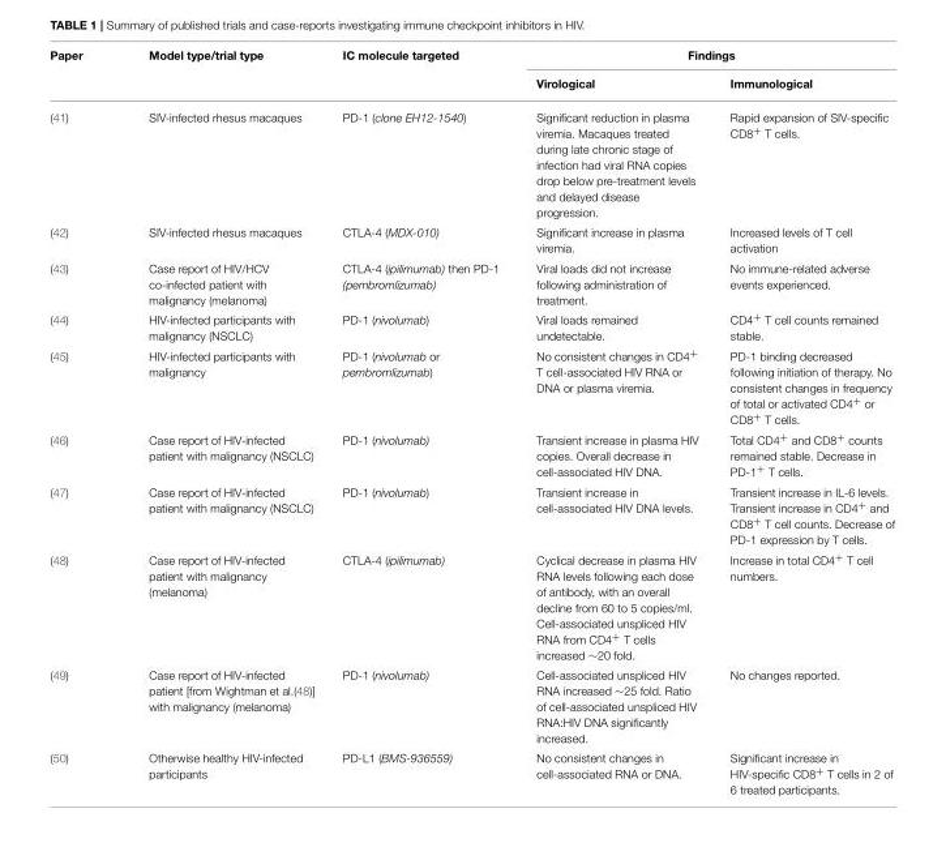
<table><thead><tr><td rowspan="2">Paper</td><td rowspan="2">Model type/trial type</td><td rowspan="2">IC molecule targeted</td><td colspan="2">Findings</td></tr><tr><td>Virological</td><td>Immunological</td></tr></thead><tbody><tr><td>(41)</td><td>SIV-infected rhesus macaques</td><td>PD-1 (clone EH12-1540)</td><td>Significant reduction in plasma viremia. Macaques treated during late chronic stage of infection had viral RNA copies drop below pre-treatment levels and delayed disease progression.</td><td>Rapid expansion of SIV-specific CD8<sup>+</sup> T cells.</td></tr><tr><td>(42)</td><td>SIV-infected rhesus macaques</td><td>CTLA-4 (MDX-010)</td><td>Significant increase in plasma viremia.</td><td>Increased levels of T cell activation</td></tr><tr><td>(43)</td><td>Case report of HIV/HCV co-infected patient with malignancy (melanoma)</td><td>CTLA-4 (ipilimumab) then PD-1 (pembromlizumab)</td><td>Viral loads did not increase following administration of treatment.</td><td>No immune-related adverse events experienced.</td></tr><tr><td>(44)</td><td>HIV-infected participants with malignancy (NSCLC)</td><td>PD-1 (nivolumab)</td><td>Viral loads remained undetectable.</td><td>CD4<sup>+</sup> T cell counts remained stable.</td></tr><tr><td>(45)</td><td>HIV-infected participants with malignancy</td><td>PD-1 (nivolumab or pembromlizumab)</td><td>No consistent changes in CD4<sup>+</sup> T cell-associated HIV RNA or DNA or plasma viremia.</td><td>PD-1 binding decreased following initiation of therapy. No consistent changes in frequency of total or activated CD4<sup>+</sup> or CD8<sup>+</sup> T cells.</td></tr><tr><td>(46)</td><td>Case report of HIV-infected patient with malignancy (NSCLC)</td><td>PD-1 (nivolumab)</td><td>Transient increase in plasma HIV copies. Overall decrease in cell-associated HIV DNA.</td><td>Total CD4<sup>+</sup> and CD8<sup>+</sup> counts remained stable. Decrease in PD-1<sup>+</sup> T cells.</td></tr><tr><td>(47)</td><td>Case report of HIV-infected patient with malignancy (NSCLC)</td><td>PD-1 (nivolumab)</td><td>Transient increase in cell-associated HIV DNA levels.</td><td>Transient increase in IL-6 levels. Transient increase in CD4<sup>+</sup> and CD8<sup>+</sup> T cell counts. Decrease of PD-1 expression by T cells.</td></tr><tr><td>(48)</td><td>Case report of HIV-infected patient with malignancy (melanoma)</td><td>CTLA-4 (ipilimumab)</td><td>Cyclical decrease in plasma HIV RNA levels following each dose of antibody, with an overall decline from 60 to 5 copies/ml. Cell-associated unspliced HIV RNA from CD4+ T cells increased ∼20 fold.</td><td>Increase in total CD4<sup>+</sup> T cell numbers.</td></tr><tr><td>(49)</td><td>Case report of HIV-infected patient [from Wightman et al.(48)] with malignancy (melanoma)</td><td>PD-1 (nivolumab)</td><td>Cell-associated unspliced HIV RNA increased ∼25 fold. Ratio of cell-associated unspliced HIV RNA:HIV DNA significantly increased.</td><td>No changes reported.</td></tr><tr><td>(50)</td><td>Otherwise healthy HIV-infected participants</td><td>PD-L1 (BMS-936559)</td><td>No consistent changes in cell-associated RNA or DNA.</td><td>Significant increase in HIV-specific CD8<sup>+</sup> T cells in 2 of 6 treated participants.</td></tr></tbody></table>